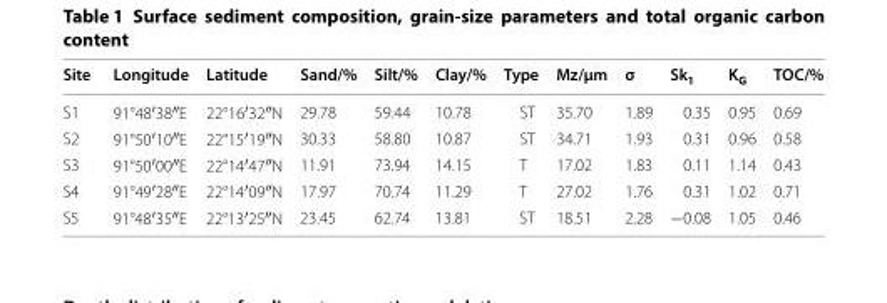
<table><thead><tr><td>Site</td><td>Longitude</td><td>Latitude</td><td>Sand/%</td><td>Silt/%</td><td>Clay/%</td><td>Type</td><td>Mz/μm</td><td>σ</td><td>Sk<sub>1</sub></td><td>K<sub>G</sub></td><td>TOC/%</td></tr></thead><tbody><tr><td>S1</td><td>91°48′38″E</td><td>22°16′32″N</td><td>29.78</td><td>59.44</td><td>10.78</td><td>ST</td><td>35.70</td><td>1.89</td><td>0.35</td><td>0.95</td><td>0.69</td></tr><tr><td>S2</td><td>91°50′10″E</td><td>22°15′19″N</td><td>30.33</td><td>58.80</td><td>10.87</td><td>ST</td><td>34.71</td><td>1.93</td><td>0.31</td><td>0.96</td><td>0.58</td></tr><tr><td>S3</td><td>91°50′00″E</td><td>22°14′47″N</td><td>11.91</td><td>73.94</td><td>14.15</td><td>T</td><td>17.02</td><td>1.83</td><td>0.11</td><td>1.14</td><td>0.43</td></tr><tr><td>S4</td><td>91°49′28″E</td><td>22°14′09″N</td><td>17.97</td><td>70.74</td><td>11.29</td><td>T</td><td>27.02</td><td>1.76</td><td>0.31</td><td>1.02</td><td>0.71</td></tr><tr><td>S5</td><td>91°48′35″E</td><td>22°13′25″N</td><td>23.45</td><td>62.74</td><td>13.81</td><td>ST</td><td>18.51</td><td>2.28</td><td>−0.08</td><td>1.05</td><td>0.46</td></tr></tbody></table>